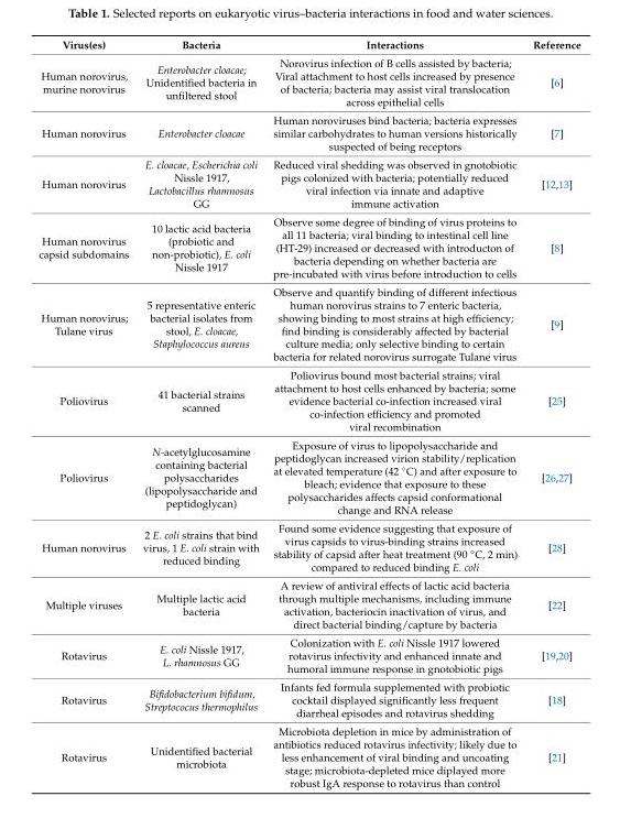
<table><thead><tr><td>Virus(es)</td><td>Bacteria</td><td>Interactions</td><td>Reference</td></tr></thead><tbody><tr><td>Human norovirus, murine norovirus</td><td>Enterobacter cloacae; Unidentified bacteria in unfiltered stool</td><td>Norovirus infection of B cells assisted by bacteria; Viral attachment to host cells increased by presence of bacteria; bacteria may assist viral translocation across epithelial cells</td><td>[6]</td></tr><tr><td>Human norovirus</td><td>Enterobacter cloacae</td><td>Human noroviruses bind bacteria; bacteria expresses similar carbohydrates to human versions historically suspected of being receptors</td><td>[7]</td></tr><tr><td>Human norovirus</td><td>E. cloacae, Escherichia coli Nissle 1917, Lactobacillus rhamnosus GG</td><td>Reduced viral shedding was observed in gnotobiotic pigs colonized with bacteria; potentially reduced viral infection via innate and adaptive immune activation</td><td>[12,13]</td></tr><tr><td>Human norovirus capsid subdomains</td><td>10 lactic acid bacteria (probiotic and non-probiotic), E. coli Nissle 1917</td><td>Observe some degree of binding of virus proteins to all 11 bacteria; viral binding to intestinal cell line (HT-29) increased or decreased with introducton of bacteria depending on whether bacteria are pre-incubated with virus before introduction to cells</td><td>[8]</td></tr><tr><td>Human norovirus; Tulane virus</td><td>5 representative enteric bacterial isolates from stool, E. cloacae, Staphylococcus aureus</td><td>Observe and quantify binding of different infectious human norovirus strains to 7 enteric bacteria, showing binding to most strains at high efficiency; find binding is considerably affected by bacterial culture media; only selective binding to certain bacteria for related norovirus surrogate Tulane virus</td><td>[9]</td></tr><tr><td>Poliovirus</td><td>41 bacterial strains scanned</td><td>Poliovirus bound most bacterial strains; viral attachment to host cells enhanced by bacteria; some evidence bacterial co-infection increased viral co-infection efficiency and promoted viral recombination</td><td>[25]</td></tr><tr><td>Poliovirus</td><td>N-acetylglucosamine containing bacterial polysaccharides (lipopolysaccharide and peptidoglycan)</td><td>Exposure of virus to lipopolysaccharide and peptidoglycan increased virion stability/replication at elevated temperature (42 ◦C) and after exposure to bleach; evidence that exposure to these polysaccharides affects capsid conformational change and RNA release</td><td>[26,27]</td></tr><tr><td>Human norovirus</td><td>2 E. coli strains that bind virus, 1 E. coli strain with reduced binding</td><td>Found some evidence suggesting that exposure of virus capsids to virus-binding strains increased stability of capsid after heat treatment (90 ◦C, 2 min) compared to reduced binding E. coli</td><td>[28]</td></tr><tr><td>Multiple viruses</td><td>Multiple lactic acid bacteria</td><td>A review of antiviral effects of lactic acid bacteria through multiple mechanisms, including immune activation, bacteriocin inactivation of virus, and direct bacterial binding/capture by bacteria</td><td>[22]</td></tr><tr><td>Rotavirus</td><td>E. coli Nissle 1917, L. rhamnosus GG</td><td>Colonization with E. coli Nissle 1917 lowered rotavirus infectivity and enhanced innate and humoral immune response in gnotobiotic pigs</td><td>[19,20]</td></tr><tr><td>Rotavirus</td><td>Bifidobacterium bifidum, Streptococus thermophilus</td><td>Infants fed formula supplemented with probiotic cocktail displayed significantly less frequent diarrheal episodes and rotavirus shedding</td><td>[18]</td></tr><tr><td>Rotavirus</td><td>Unidentified bacterial microbiota</td><td>Microbiota depletion in mice by administration of antibiotics reduced rotavirus infectivity; likely due to less enhancement of viral binding and uncoating stage; microbiota-depleted mice diplayed more robust IgA response to rotavirus than control</td><td>[21]</td></tr></tbody></table>